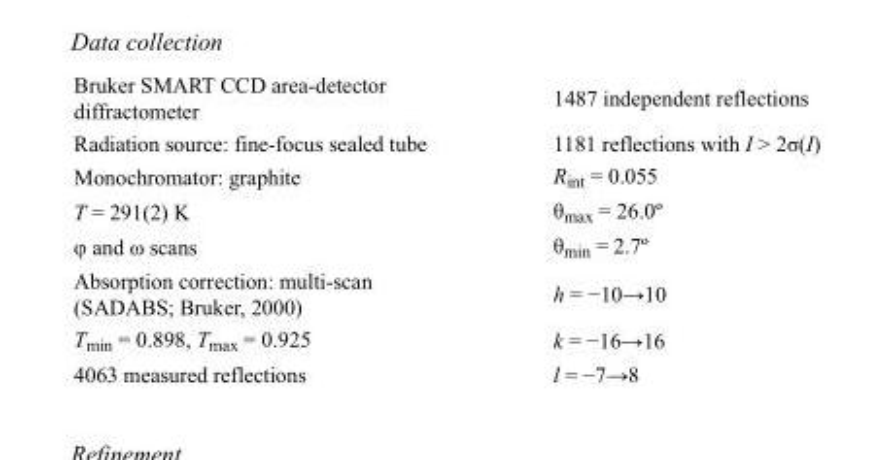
<table><tbody><tr><td>Bruker SMART CCD area-detector diffractometer</td><td>1487 independent reflections</td></tr><tr><td>Radiation source: fine-focus sealed tube</td><td>1181 reflections with I &gt; 2σ(I)</td></tr><tr><td>Monochromator: graphite</td><td>R<sub>int</sub> = 0.055</td></tr><tr><td>T = 291(2) K</td><td>θ<sub>max</sub> = 26.0º</td></tr><tr><td>φ and ω scans</td><td>θ<sub>min</sub> = 2.7º</td></tr><tr><td>Absorption correction: multi-scan (SADABS; Bruker, 2000)</td><td>h = −10→10</td></tr><tr><td>T<sub>min</sub> = 0.898, T<sub>max</sub> = 0.925</td><td>k = −16→16</td></tr><tr><td>4063 measured reflections</td><td>l = −7→8</td></tr></tbody></table>